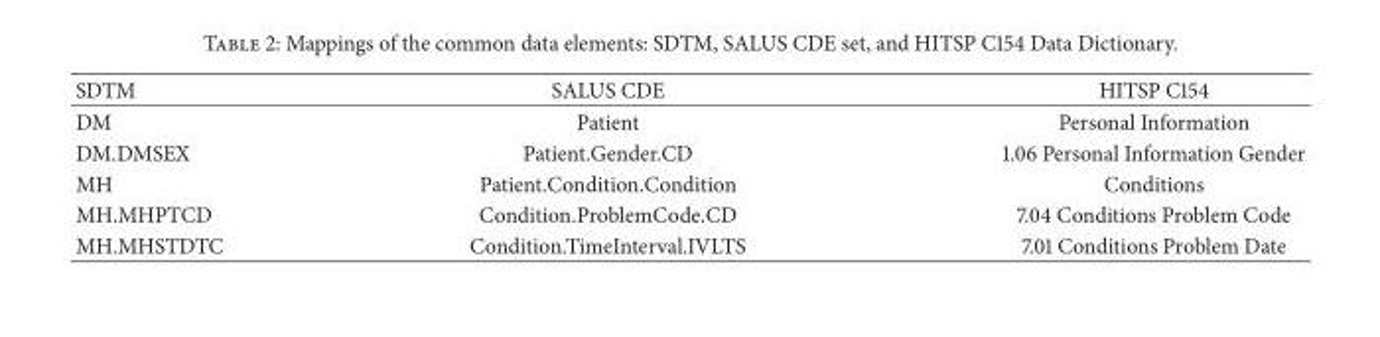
<table><thead><tr><td>SDTM</td><td>SALUS CDE</td><td>HITSP C154</td></tr></thead><tbody><tr><td>DM</td><td>Patient</td><td>Personal Information</td></tr><tr><td>DM.DMSEX</td><td>Patient.Gender.CD</td><td>1.06 Personal Information Gender</td></tr><tr><td>MH</td><td>Patient.Condition.Condition</td><td>Conditions</td></tr><tr><td>MH.MHPTCD</td><td>Condition.ProblemCode.CD</td><td>7.04 Conditions Problem Code</td></tr><tr><td>MH.MHSTDTC</td><td>Condition.TimeInterval.IVLTS</td><td>7.01 Conditions Problem Date</td></tr></tbody></table>